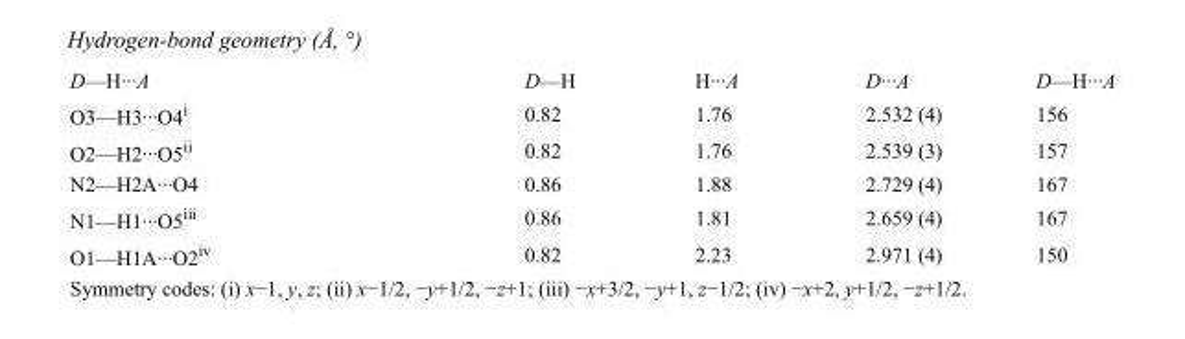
<table><tbody><tr><td>D—H···A</td><td>D—H</td><td>H···A</td><td>D···A</td><td>D—H···A</td></tr><tr><td>O3—H3···O4<sup>i</sup></td><td>0.82</td><td>1.76</td><td>2.532 (4)</td><td>156</td></tr><tr><td>O2—H2···O5<sup>ii</sup></td><td>0.82</td><td>1.76</td><td>2.539 (3)</td><td>157</td></tr><tr><td>N2—H2A···O4</td><td>0.86</td><td>1.88</td><td>2.729 (4)</td><td>167</td></tr><tr><td>N1—H1···O5<sup>iii</sup></td><td>0.86</td><td>1.81</td><td>2.659 (4)</td><td>167</td></tr><tr><td>O1—H1A···O2<sup>iv</sup></td><td>0.82</td><td>2.23</td><td>2.971 (4)</td><td>150</td></tr></tbody></table>